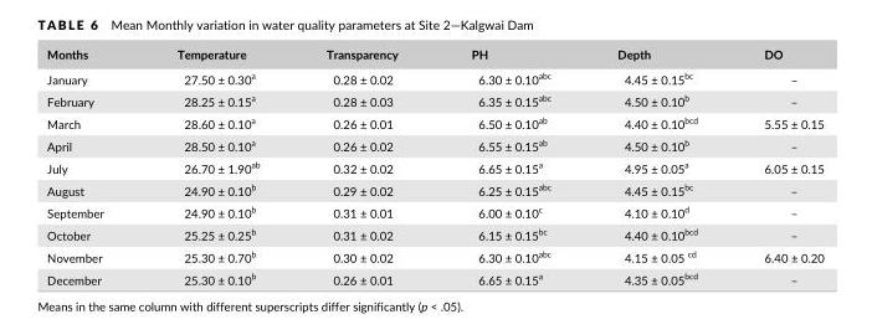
<table><thead><tr><td>Months</td><td>Temperature</td><td>Transparency</td><td>PH</td><td>Depth</td><td>DO</td></tr></thead><tbody><tr><td>January</td><td>27.50 ± 0.30<sup>a</sup></td><td>0.28 ± 0.02</td><td>6.30 ± 0.10<sup>abc</sup></td><td>4.45 ± 0.15<sup>bc</sup></td><td>–</td></tr><tr><td>February</td><td>28.25 ± 0.15<sup>a</sup></td><td>0.28 ± 0.03</td><td>6.35 ± 0.15<sup>abc</sup></td><td>4.50 ± 0.10<sup>b</sup></td><td>–</td></tr><tr><td>March</td><td>28.60 ± 0.10<sup>a</sup></td><td>0.26 ± 0.01</td><td>6.50 ± 0.10<sup>ab</sup></td><td>4.40 ± 0.10<sup>bcd</sup></td><td>5.55 ± 0.15</td></tr><tr><td>April</td><td>28.50 ± 0.10<sup>a</sup></td><td>0.26 ± 0.02</td><td>6.55 ± 0.15<sup>ab</sup></td><td>4.50 ± 0.10<sup>b</sup></td><td>–</td></tr><tr><td>July</td><td>26.70 ± 1.90<sup>ab</sup></td><td>0.32 ± 0.02</td><td>6.65 ± 0.15<sup>a</sup></td><td>4.95 ± 0.05<sup>a</sup></td><td>6.05 ± 0.15</td></tr><tr><td>August</td><td>24.90 ± 0.10<sup>b</sup></td><td>0.29 ± 0.02</td><td>6.25 ± 0.15<sup>abc</sup></td><td>4.45 ± 0.15<sup>bc</sup></td><td>–</td></tr><tr><td>September</td><td>24.90 ± 0.10<sup>b</sup></td><td>0.31 ± 0.01</td><td>6.00 ± 0.10<sup>c</sup></td><td>4.10 ± 0.10<sup>d</sup></td><td>–</td></tr><tr><td>October</td><td>25.25 ± 0.25<sup>b</sup></td><td>0.31 ± 0.02</td><td>6.15 ± 0.15<sup>bc</sup></td><td>4.40 ± 0.10<sup>bcd</sup></td><td>–</td></tr><tr><td>November</td><td>25.30 ± 0.70<sup>b</sup></td><td>0.30 ± 0.02</td><td>6.30 ± 0.10<sup>abc</sup></td><td>4.15 ± 0.05 <sup>cd</sup></td><td>6.40 ± 0.20</td></tr><tr><td>December</td><td>25.30 ± 0.10<sup>b</sup></td><td>0.26 ± 0.01</td><td>6.65 ± 0.15<sup>a</sup></td><td>4.35 ± 0.05<sup>bcd</sup></td><td>–</td></tr></tbody></table>